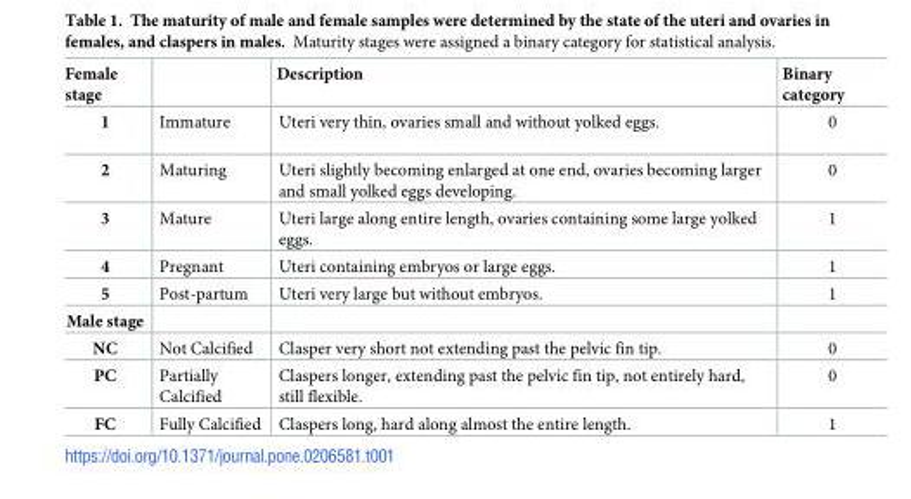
<table><thead><tr><td>Female stage</td><td></td><td>Description</td><td>Binary category</td></tr></thead><tbody><tr><td>1</td><td>Immature</td><td>Uteri very thin, ovaries small and without yolked eggs.</td><td>0</td></tr><tr><td>2</td><td>Maturing</td><td>Uteri slightly becoming enlarged at one end, ovaries becoming larger and small yolked eggs developing.</td><td>0</td></tr><tr><td>3</td><td>Mature</td><td>Uteri large along entire length, ovaries containing some large yolked eggs.</td><td>1</td></tr><tr><td>4</td><td>Pregnant</td><td>Uteri containing embryos or large eggs.</td><td>1</td></tr><tr><td>5</td><td>Post-partum</td><td>Uteri very large but without embryos.</td><td>1</td></tr><tr><td colspan="4">Male stage</td></tr><tr><td>NC</td><td>Not Calcified</td><td>Clasper very short not extending past the pelvic fin tip.</td><td>0</td></tr><tr><td>PC</td><td>Partially Calcified</td><td>Claspers longer, extending past the pelvic fin tip, not entirely hard, still flexible.</td><td>0</td></tr><tr><td>FC</td><td>Fully Calcified</td><td>Claspers long, hard along almost the entire length.</td><td>1</td></tr></tbody></table>